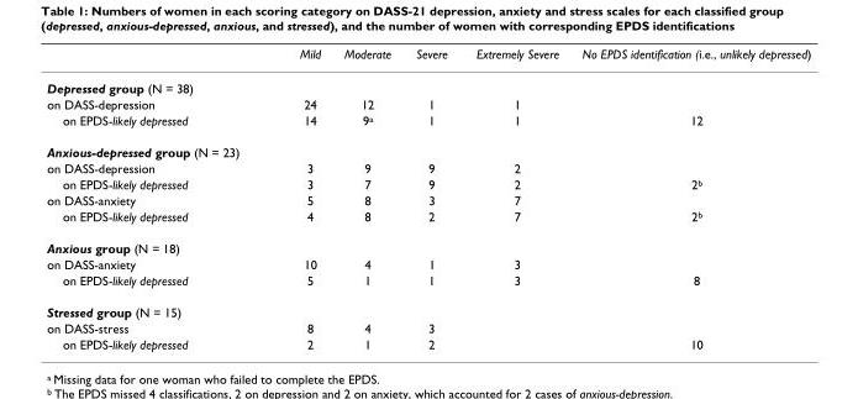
<table><thead><tr><td></td><td>Mild</td><td>Moderate</td><td>Severe</td><td>Extremely Severe</td><td>No EPDS identification (i.e., unlikely depressed)</td></tr></thead><tbody><tr><td colspan="6">Depressed group (N = 38)</td></tr><tr><td>on DASS-depression</td><td>24</td><td>12</td><td>1</td><td>1</td><td></td></tr><tr><td>on EPDS-likely depressed</td><td>14</td><td>9<sup>a</sup></td><td>1</td><td>1</td><td>12</td></tr><tr><td colspan="6">Anxious-depressed group (N = 23)</td></tr><tr><td>on DASS-depression</td><td>3</td><td>9</td><td>9</td><td>2</td><td></td></tr><tr><td>on EPDS-likely depressed</td><td>3</td><td>7</td><td>9</td><td>2</td><td>2<sup>b</sup></td></tr><tr><td>on DASS-anxiety</td><td>5</td><td>8</td><td>3</td><td>7</td><td></td></tr><tr><td>on EPDS-likely depressed</td><td>4</td><td>8</td><td>2</td><td>7</td><td>2<sup>b</sup></td></tr><tr><td colspan="6">Anxious group (N = 18)</td></tr><tr><td>on DASS-anxiety</td><td>10</td><td>4</td><td>1</td><td>3</td><td></td></tr><tr><td>on EPDS-likely depressed</td><td>5</td><td>1</td><td>1</td><td>3</td><td>8</td></tr><tr><td colspan="6">Stressed group (N = 15)</td></tr><tr><td>on DASS-stress</td><td>8</td><td>4</td><td>3</td><td></td><td></td></tr><tr><td>on EPDS-likely depressed</td><td>2</td><td>1</td><td>2</td><td></td><td>10</td></tr></tbody></table>